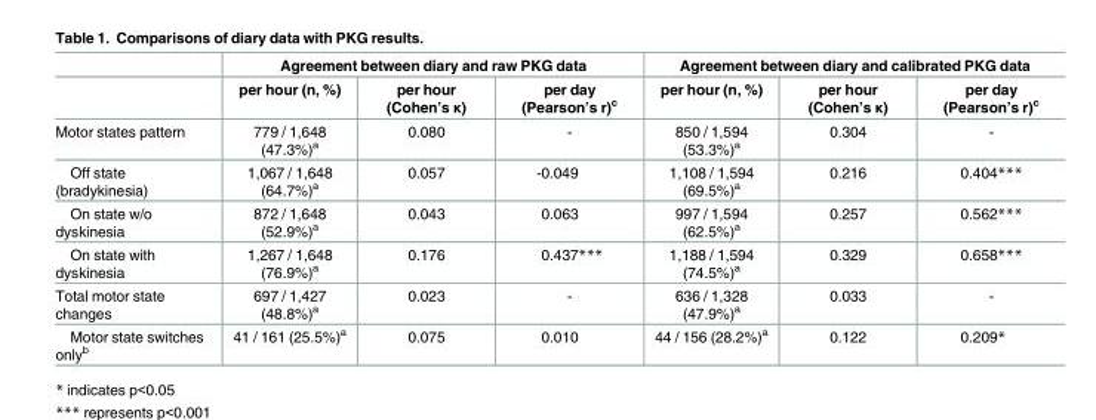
<table><thead><tr><td rowspan="2"></td><td colspan="3">Agreement between diary and raw PKG data</td><td colspan="3">Agreement between diary and calibrated PKG data</td></tr><tr><td>per hour (n, %)</td><td>per hour (Cohen’s κ)</td><td>per day (Pearson’s r)<sup>c</sup></td><td>per hour (n, %)</td><td>per hour (Cohen’s κ)</td><td>per day (Pearson’s r)<sup>c</sup></td></tr></thead><tbody><tr><td>Motor states pattern</td><td>779 / 1,648 (47.3%)<sup>a</sup></td><td>0.080</td><td>-</td><td>850 / 1,594 (53.3%)<sup>a</sup></td><td>0.304</td><td>-</td></tr><tr><td>Off state (bradykinesia)</td><td>1,067 / 1,648 (64.7%)<sup>a</sup></td><td>0.057</td><td>-0.049</td><td>1,108 / 1,594 (69.5%)<sup>a</sup></td><td>0.216</td><td>0.404***</td></tr><tr><td>On state w/o dyskinesia</td><td>872 / 1,648 (52.9%)<sup>a</sup></td><td>0.043</td><td>0.063</td><td>997 / 1,594 (62.5%)<sup>a</sup></td><td>0.257</td><td>0.562***</td></tr><tr><td>On state with dyskinesia</td><td>1,267 / 1,648 (76.9%)<sup>a</sup></td><td>0.176</td><td>0.437***</td><td>1,188 / 1,594 (74.5%)<sup>a</sup></td><td>0.329</td><td>0.658***</td></tr><tr><td>Total motor state changes</td><td>697 / 1,427 (48.8%)<sup>a</sup></td><td>0.023</td><td>-</td><td>636 / 1,328 (47.9%)<sup>a</sup></td><td>0.033</td><td>-</td></tr><tr><td>Motor state switches only<sup>b</sup></td><td>41 / 161 (25.5%)<sup>a</sup></td><td>0.075</td><td>0.010</td><td>44 / 156 (28.2%)<sup>a</sup></td><td>0.122</td><td>0.209*</td></tr></tbody></table>